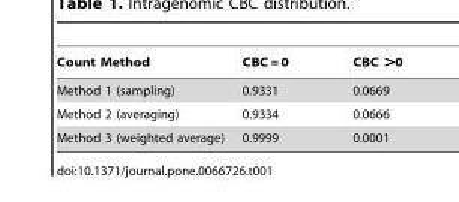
<table><thead><tr><td>Count Method</td><td>CBC = 0</td><td>CBC &gt;0</td></tr></thead><tbody><tr><td>Method 1 (sampling)</td><td>0.9331</td><td>0.0669</td></tr><tr><td>Method 2 (averaging)</td><td>0.9334</td><td>0.0666</td></tr><tr><td>Method 3 (weighted average)</td><td>0.9999</td><td>0.0001</td></tr></tbody></table>